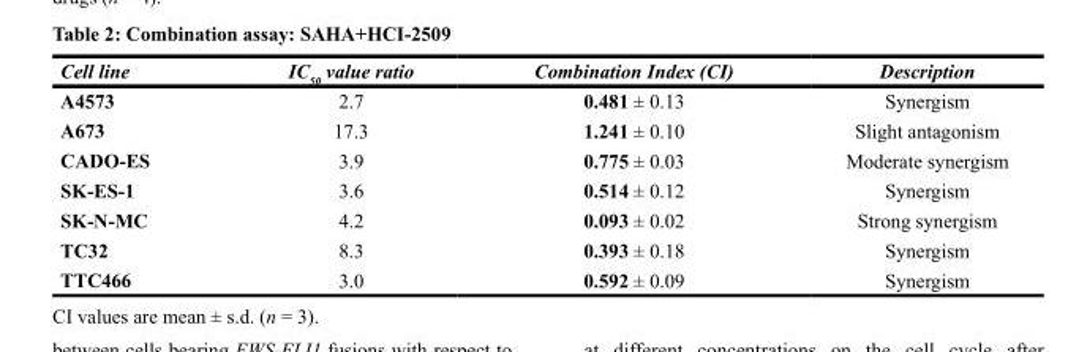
<table><thead><tr><td>Cell line</td><td>IC<sub>50</sub> value ratio</td><td>Combination Index (CI)</td><td>Description</td></tr></thead><tbody><tr><td>A4573</td><td>2.7</td><td>0.481 ± 0.13</td><td>Synergism</td></tr><tr><td>A673</td><td>17.3</td><td>1.241 ± 0.10</td><td>Slight antagonism</td></tr><tr><td>CADO-ES</td><td>3.9</td><td>0.775 ± 0.03</td><td>Moderate synergism</td></tr><tr><td>SK-ES-1</td><td>3.6</td><td>0.514 ± 0.12</td><td>Synergism</td></tr><tr><td>SK-N-MC</td><td>4.2</td><td>0.093 ± 0.02</td><td>Strong synergism</td></tr><tr><td>TC32</td><td>8.3</td><td>0.393 ± 0.18</td><td>Synergism</td></tr><tr><td>TTC466</td><td>3.0</td><td>0.592 ± 0.09</td><td>Synergism</td></tr></tbody></table>